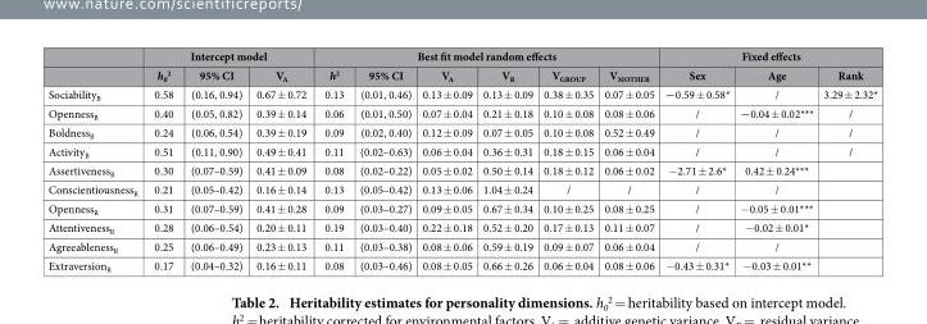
<table><thead><tr><td rowspan="2"></td><td colspan="3">Intercept model</td><td colspan="6">Best fit model random effects</td><td colspan="3">Fixed effects</td></tr><tr><td>h<sub>0</sub> <sup>2</sup></td><td>95% CI</td><td>V<sub>A</sub></td><td>h<sup>2</sup></td><td>95% CI</td><td>V<sub>A</sub></td><td>V<sub>R</sub></td><td>V<sub>GROUP</sub></td><td>V<sub>MOTHER</sub></td><td>Sex</td><td>Age</td><td>Rank</td></tr></thead><tbody><tr><td>Sociability<sub>B</sub></td><td>0.58</td><td>(0.16, 0.94)</td><td>0.67 ± 0.72</td><td>0.13</td><td>(0.01, 0.46)</td><td>0.13 ± 0.09</td><td>0.13 ± 0.09</td><td>0.38 ± 0.35</td><td>0.07 ± 0.05</td><td>−0.59 ± 0.58*</td><td>/</td><td>3.29 ± 2.32*</td></tr><tr><td>Openness<sub>B</sub></td><td>0.40</td><td>(0.05, 0.82)</td><td>0.39 ± 0.14</td><td>0.06</td><td>(0.01, 0.50)</td><td>0.07 ± 0.04</td><td>0.21 ± 0.18</td><td>0.10 ± 0.08</td><td>0.08 ± 0.06</td><td>/</td><td>−0.04 ± 0.02***</td><td>/</td></tr><tr><td>Boldness<sub>B</sub></td><td>0.24</td><td>(0.06, 0.54)</td><td>0.39 ± 0.19</td><td>0.09</td><td>(0.02, 0.40)</td><td>0.12 ± 0.09</td><td>0.07 ± 0.05</td><td>0.10 ± 0.08</td><td>0.52 ± 0.49</td><td>/</td><td>/</td><td>/</td></tr><tr><td>Activity<sub>B</sub></td><td>0.51</td><td>(0.11, 0.90)</td><td>0.49 ± 0.41</td><td>0.11</td><td>(0.02–0.63)</td><td>0.06 ± 0.04</td><td>0.36 ± 0.31</td><td>0.18 ± 0.15</td><td>0.06 ± 0.04</td><td>/</td><td>/</td><td>/</td></tr><tr><td>Assertiveness<sub>R</sub></td><td>0.30</td><td>(0.07–0.59)</td><td>0.41 ± 0.09</td><td>0.08</td><td>(0.02–0.22)</td><td>0.05 ± 0.02</td><td>0.50 ± 0.14</td><td>0.18 ± 0.12</td><td>0.06 ± 0.02</td><td>− 2.71 ± 2.6*</td><td>0.42 ± 0.24***</td><td></td></tr><tr><td>Conscientiousness<sub>R</sub></td><td>0.21</td><td>(0.05–0.42)</td><td>0.16 ± 0.14</td><td>0.13</td><td>(0.05–0.42)</td><td>0.13 ± 0.06</td><td>1.04 ± 0.24</td><td>/</td><td>/</td><td>/</td><td>/</td><td></td></tr><tr><td>Openness<sub>R</sub></td><td>0.31</td><td>(0.07–0.59)</td><td>0.41 ± 0.28</td><td>0.09</td><td>(0.03–0.27)</td><td>0.09 ± 0.05</td><td>0.67 ± 0.34</td><td>0.10 ± 0.25</td><td>0.08 ± 0.25</td><td>/</td><td>− 0.05 ± 0.01***</td><td></td></tr><tr><td>Attentiveness<sub>R</sub></td><td>0.28</td><td>(0.06–0.54)</td><td>0.20 ± 0.11</td><td>0.19</td><td>(0.03–0.40)</td><td>0.22 ± 0.18</td><td>0.52 ± 0.20</td><td>0.17 ± 0.13</td><td>0.11 ± 0.07</td><td>/</td><td>− 0.02 ± 0.01*</td><td></td></tr><tr><td>Agreeableness<sub>R</sub></td><td>0.25</td><td>(0.06–0.49)</td><td>0.23 ± 0.13</td><td>0.11</td><td>(0.03–0.38)</td><td>0.08 ± 0.06</td><td>0.59 ± 0.19</td><td>0.09 ± 0.07</td><td>0.06 ± 0.04</td><td>/</td><td>/</td><td></td></tr><tr><td>Extraversion<sub>R</sub></td><td>0.17</td><td>(0.04–0.32)</td><td>0.16 ± 0.11</td><td>0.08</td><td>(0.03–0.46)</td><td>0.08 ± 0.05</td><td>0.66 ± 0.26</td><td>0.06 ± 0.04</td><td>0.08 ± 0.06</td><td>− 0.43 ± 0.31*</td><td>− 0.03 ± 0.01**</td><td></td></tr></tbody></table>